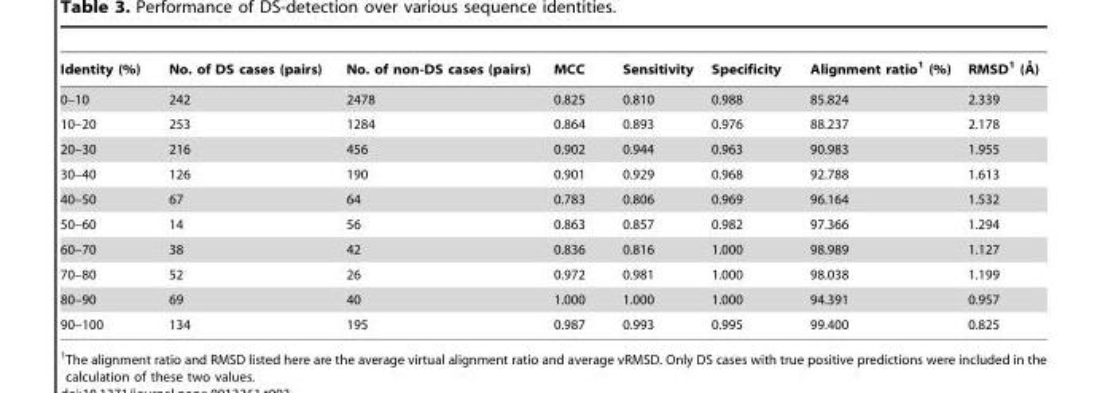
<table><thead><tr><td>Identity (%)</td><td>No. of DS cases (pairs)</td><td>No. of non-DS cases (pairs)</td><td>MCC</td><td>Sensitivity</td><td>Specificity</td><td>Alignment ratio<sup>1</sup> (%)</td><td>RMSD1 (A˚)</td></tr></thead><tbody><tr><td>0–10</td><td>242</td><td>2478</td><td>0.825</td><td>0.810</td><td>0.988</td><td>85.824</td><td>2.339</td></tr><tr><td>10–20</td><td>253</td><td>1284</td><td>0.864</td><td>0.893</td><td>0.976</td><td>88.237</td><td>2.178</td></tr><tr><td>20–30</td><td>216</td><td>456</td><td>0.902</td><td>0.944</td><td>0.963</td><td>90.983</td><td>1.955</td></tr><tr><td>30–40</td><td>126</td><td>190</td><td>0.901</td><td>0.929</td><td>0.968</td><td>92.788</td><td>1.613</td></tr><tr><td>40–50</td><td>67</td><td>64</td><td>0.783</td><td>0.806</td><td>0.969</td><td>96.164</td><td>1.532</td></tr><tr><td>50–60</td><td>14</td><td>56</td><td>0.863</td><td>0.857</td><td>0.982</td><td>97.366</td><td>1.294</td></tr><tr><td>60–70</td><td>38</td><td>42</td><td>0.836</td><td>0.816</td><td>1.000</td><td>98.989</td><td>1.127</td></tr><tr><td>70–80</td><td>52</td><td>26</td><td>0.972</td><td>0.981</td><td>1.000</td><td>98.038</td><td>1.199</td></tr><tr><td>80–90</td><td>69</td><td>40</td><td>1.000</td><td>1.000</td><td>1.000</td><td>94.391</td><td>0.957</td></tr><tr><td>90–100</td><td>134</td><td>195</td><td>0.987</td><td>0.993</td><td>0.995</td><td>99.400</td><td>0.825</td></tr></tbody></table>